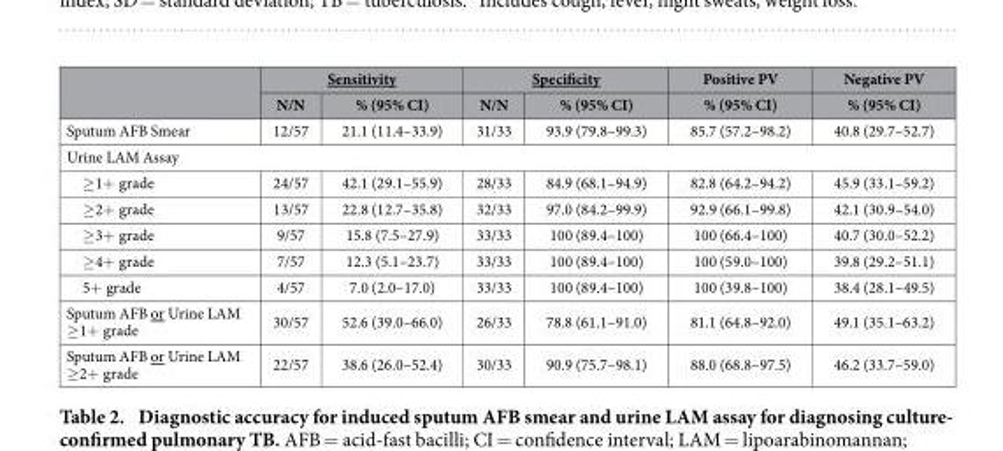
<table><thead><tr><td rowspan="2"></td><td colspan="2">Sensitivity</td><td colspan="2">Specificity</td><td rowspan="2">Positive PV % (95% CI)</td><td rowspan="2">Negative PV % (95% CI)</td></tr><tr><td>N/N</td><td>% (95% CI)</td><td>N/N</td><td>% (95% CI)</td></tr></thead><tbody><tr><td>Sputum AFB Smear</td><td>12/57</td><td>21.1 (11.4–33.9)</td><td>31/33</td><td>93.9 (79.8–99.3)</td><td>85.7 (57.2–98.2)</td><td>40.8 (29.7–52.7)</td></tr><tr><td colspan="7">Urine LAM Assay</td></tr><tr><td>≥ 1+ grade</td><td>24/57</td><td>42.1 (29.1–55.9)</td><td>28/33</td><td>84.9 (68.1–94.9)</td><td>82.8 (64.2–94.2)</td><td>45.9 (33.1–59.2)</td></tr><tr><td>≥ 2+ grade</td><td>13/57</td><td>22.8 (12.7–35.8)</td><td>32/33</td><td>97.0 (84.2–99.9)</td><td>92.9 (66.1–99.8)</td><td>42.1 (30.9–54.0)</td></tr><tr><td>≥ 3+ grade</td><td>9/57</td><td>15.8 (7.5–27.9)</td><td>33/33</td><td>100 (89.4–100)</td><td>100 (66.4–100)</td><td>40.7 (30.0–52.2)</td></tr><tr><td>≥ 4+ grade</td><td>7/57</td><td>12.3 (5.1–23.7)</td><td>33/33</td><td>100 (89.4–100)</td><td>100 (59.0–100)</td><td>39.8 (29.2–51.1)</td></tr><tr><td>5+ grade</td><td>4/57</td><td>7.0 (2.0–17.0)</td><td>33/33</td><td>100 (89.4–100)</td><td>100 (39.8–100)</td><td>38.4 (28.1–49.5)</td></tr><tr><td>Sputum AFB or Urine LAM ≥ 1+ grade</td><td>30/57</td><td>52.6 (39.0–66.0)</td><td>26/33</td><td>78.8 (61.1–91.0)</td><td>81.1 (64.8–92.0)</td><td>49.1 (35.1–63.2)</td></tr><tr><td>Sputum AFB or Urine LAM ≥ 2+ grade</td><td>22/57</td><td>38.6 (26.0–52.4)</td><td>30/33</td><td>90.9 (75.7–98.1)</td><td>88.0 (68.8–97.5)</td><td>46.2 (33.7–59.0)</td></tr></tbody></table>